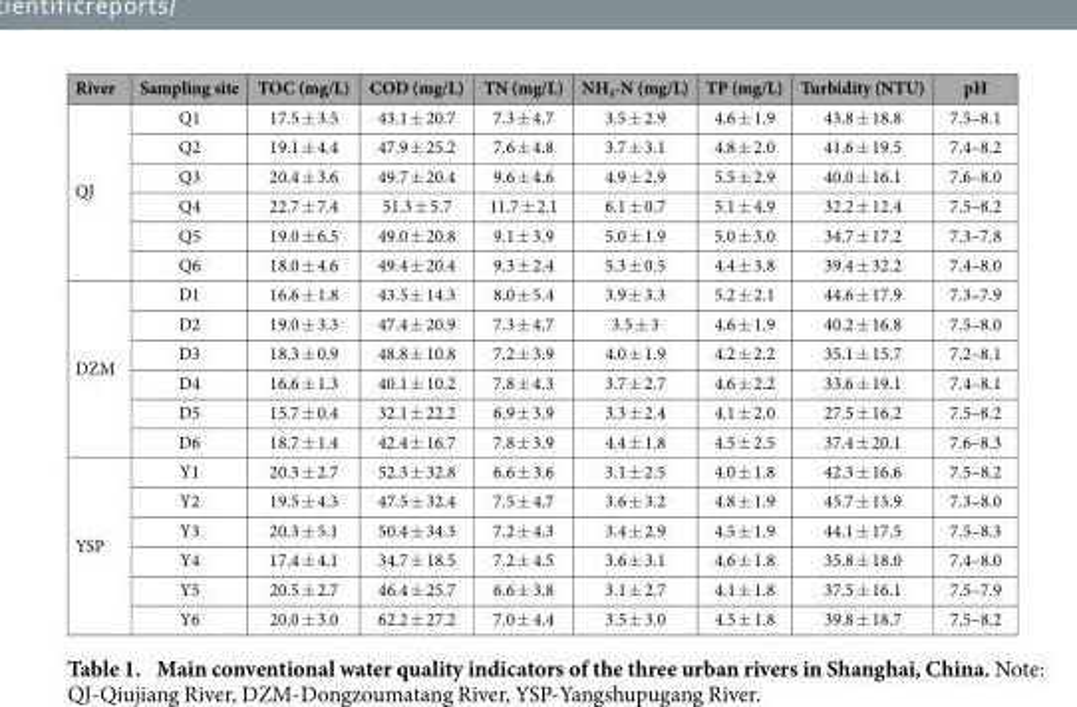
<table><thead><tr><td>River</td><td>Sampling site</td><td>TOC (mg/L)</td><td>COD (mg/L)</td><td>TN (mg/L)</td><td>NH<sub>3</sub>-N (mg/L)</td><td>TP (mg/L)</td><td>Turbidity (NTU)</td><td>pH</td></tr></thead><tbody><tr><td rowspan="6">QJ</td><td>Q1</td><td>17.5 ± 3.5</td><td>43.1 ± 20.7</td><td>7.3 ± 4.7</td><td>3.5 ± 2.9</td><td>4.6 ± 1.9</td><td>43.8 ± 18.8</td><td>7.5–8.1</td></tr><tr><td>Q2</td><td>19.1 ± 4.4</td><td>47.9 ± 25.2</td><td>7.6 ± 4.8</td><td>3.7 ± 3.1</td><td>4.8 ± 2.0</td><td>41.6 ± 19.5</td><td>7.4–8.2</td></tr><tr><td>Q3</td><td>20.4 ± 3.6</td><td>49.7 ± 20.4</td><td>9.6 ± 4.6</td><td>4.9 ± 2.9</td><td>5.5 ± 2.9</td><td>40.0 ± 16.1</td><td>7.6–8.0</td></tr><tr><td>Q4</td><td>22.7 ± 7.4</td><td>51.3 ± 5.7</td><td>11.7 ± 2.1</td><td>6.1 ± 0.7</td><td>5.1 ± 4.9</td><td>32.2 ± 12.4</td><td>7.5–8.2</td></tr><tr><td>Q5</td><td>19.0 ± 6.5</td><td>49.0 ± 20.8</td><td>9.1 ± 3.9</td><td>5.0 ± 1.9</td><td>5.0 ± 3.0</td><td>34.7 ± 17.2</td><td>7.3–7.8</td></tr><tr><td>Q6</td><td>18.0 ± 4.6</td><td>49.4 ± 20.4</td><td>9.3 ± 2.4</td><td>5.3 ± 0.5</td><td>4.4 ± 3.8</td><td>39.4 ± 32.2</td><td>7.4–8.0</td></tr><tr><td rowspan="6">DZM</td><td>D1</td><td>16.6 ± 1.8</td><td>43.5 ± 14.3</td><td>8.0 ± 5.4</td><td>3.9 ± 3.3</td><td>5.2 ± 2.1</td><td>44.6 ± 17.9</td><td>7.3–7.9</td></tr><tr><td>D2</td><td>19.0 ± 3.3</td><td>47.4 ± 20.9</td><td>7.3 ± 4.7</td><td>3.5 ± 3</td><td>4.6 ± 1.9</td><td>40.2 ± 16.8</td><td>7.5–8.0</td></tr><tr><td>D3</td><td>18.3 ± 0.9</td><td>48.8 ± 10.8</td><td>7.2 ± 3.9</td><td>4.0 ± 1.9</td><td>4.2 ± 2.2</td><td>35.1 ± 15.7</td><td>7.2–8.1</td></tr><tr><td>D4</td><td>16.6 ± 1.3</td><td>40.1 ± 10.2</td><td>7.8 ± 4.3</td><td>3.7 ± 2.7</td><td>4.6 ± 2.2</td><td>33.6 ± 19.1</td><td>7.4–8.1</td></tr><tr><td>D5</td><td>15.7 ± 0.4</td><td>32.1 ± 22.2</td><td>6.9 ± 3.9</td><td>3.3 ± 2.4</td><td>4.1 ± 2.0</td><td>27.5 ± 16.2</td><td>7.5–8.2</td></tr><tr><td>D6</td><td>18.7 ± 1.4</td><td>42.4 ± 16.7</td><td>7.8 ± 3.9</td><td>4.4 ± 1.8</td><td>4.5 ± 2.5</td><td>37.4 ± 20.1</td><td>7.6–8.3</td></tr><tr><td rowspan="6">YSP</td><td>Y1</td><td>20.3 ± 2.7</td><td>52.3 ± 32.8</td><td>6.6 ± 3.6</td><td>3.1 ± 2.5</td><td>4.0 ± 1.8</td><td>42.3 ± 16.6</td><td>7.5–8.2</td></tr><tr><td>Y2</td><td>19.5 ± 4.3</td><td>47.5 ± 32.4</td><td>7.5 ± 4.7</td><td>3.6 ± 3.2</td><td>4.8 ± 1.9</td><td>45.7 ± 15.9</td><td>7.3–8.0</td></tr><tr><td>Y3</td><td>20.3 ± 5.1</td><td>50.4 ± 34.3</td><td>7.2 ± 4.3</td><td>3.4 ± 2.9</td><td>4.5 ± 1.9</td><td>44.1 ± 17.5</td><td>7.5–8.3</td></tr><tr><td>Y4</td><td>17.4 ± 4.1</td><td>34.7 ± 18.5</td><td>7.2 ± 4.5</td><td>3.6 ± 3.1</td><td>4.6 ± 1.8</td><td>35.8 ± 18.0</td><td>7.4–8.0</td></tr><tr><td>Y5</td><td>20.5 ± 2.7</td><td>46.4 ± 25.7</td><td>6.6 ± 3.8</td><td>3.1 ± 2.7</td><td>4.1 ± 1.8</td><td>37.5 ± 16.1</td><td>7.5–7.9</td></tr><tr><td>Y6</td><td>20.0 ± 3.0</td><td>62.2 ± 27.2</td><td>7.0 ± 4.4</td><td>3.5 ± 3.0</td><td>4.5 ± 1.8</td><td>39.8 ± 18.7</td><td>7.5–8.2</td></tr></tbody></table>